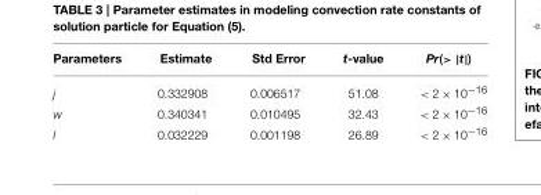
<table><thead><tr><td>Parameters</td><td>Estimate</td><td>Std Error</td><td>t-value</td><td>Pr(&gt; |t|)</td></tr></thead><tbody><tr><td>j</td><td>0.332908</td><td>0.006517</td><td>51.08</td><td>&lt; 2 × 10<sup>−16</sup></td></tr><tr><td>w</td><td>0.340341</td><td>0.010495</td><td>32.43</td><td>&lt; 2 × 10<sup>−16</sup></td></tr><tr><td>l</td><td>0.032229</td><td>0.001198</td><td>26.89</td><td>&lt; 2 × 10<sup>−16</sup></td></tr></tbody></table>